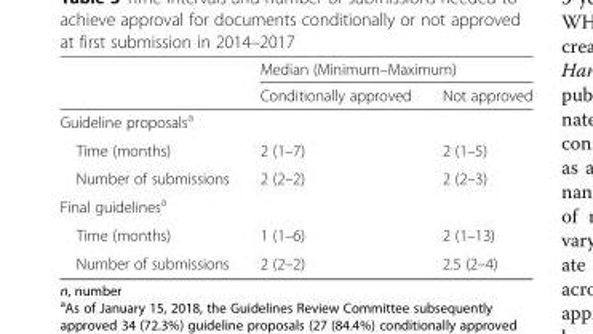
<table><thead><tr><td rowspan="2"></td><td colspan="2">Median (Minimum–Maximum)</td></tr><tr><td>Conditionally approved</td><td>Not approved</td></tr></thead><tbody><tr><td colspan="3">Guideline proposals<sup>a</sup></td></tr><tr><td>Time (months)</td><td>2 (1–7)</td><td>2 (1–5)</td></tr><tr><td>Number of submissions</td><td>2 (2–2)</td><td>2 (2–3)</td></tr><tr><td colspan="3">Final guidelines<sup>a</sup></td></tr><tr><td>Time (months)</td><td>1 (1–6)</td><td>2 (1–13)</td></tr><tr><td>Number of submissions</td><td>2 (2–2)</td><td>2.5 (2–4)</td></tr></tbody></table>